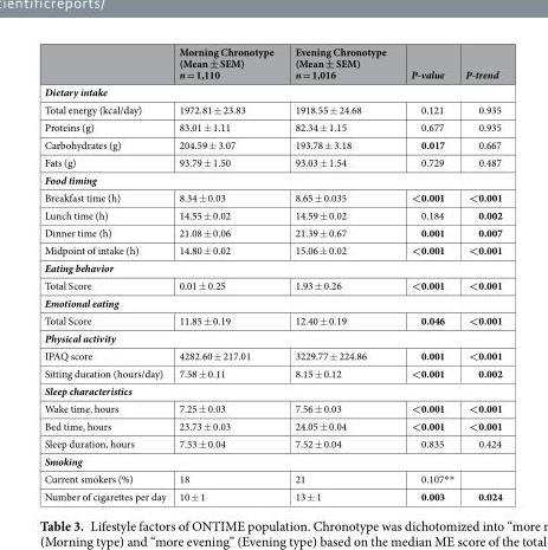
<table><thead><tr><td></td><td>Morning Chronotype (Mean ± SEM) n = 1,110</td><td>Evening Chronotype (Mean ± SEM) n = 1,016</td><td>P-value</td><td>P-trend</td></tr></thead><tbody><tr><td colspan="5">Dietary intake</td></tr><tr><td>Total energy (kcal/day)</td><td>1972.81 ± 23.83</td><td>1918.55 ± 24.68</td><td>0.121</td><td>0.935</td></tr><tr><td>Proteins (g)</td><td>83.01 ± 1.11</td><td>82.34 ± 1.15</td><td>0.677</td><td>0.935</td></tr><tr><td>Carbohydrates (g)</td><td>204.59 ± 3.07</td><td>193.78 ± 3.18</td><td>0.017</td><td>0.667</td></tr><tr><td>Fats (g)</td><td>93.79 ± 1.50</td><td>93.03 ± 1.54</td><td>0.729</td><td>0.487</td></tr><tr><td colspan="5">Food timing</td></tr><tr><td>Breakfast time (h)</td><td>8.34 ± 0.03</td><td>8.65 ± 0.035</td><td>&lt;0.001</td><td>&lt;0.001</td></tr><tr><td>Lunch time (h)</td><td>14.55 ± 0.02</td><td>14.59 ± 0.02</td><td>0.184</td><td>0.002</td></tr><tr><td>Dinner time (h)</td><td>21.08 ± 0.06</td><td>21.39 ± 0.67</td><td>0.001</td><td>0.007</td></tr><tr><td>Midpoint of intake (h)</td><td>14.80 ± 0.02</td><td>15.06 ± 0.02</td><td>&lt;0.001</td><td>&lt;0.001</td></tr><tr><td colspan="5">Eating behavior</td></tr><tr><td>Total Score</td><td>0.01 ± 0.25</td><td>1.93 ± 0.26</td><td>&lt;0.001</td><td>&lt;0.001</td></tr><tr><td colspan="5">Emotional eating</td></tr><tr><td>Total Score</td><td>11.85 ± 0.19</td><td>12.40 ± 0.19</td><td>0.046</td><td>&lt;0.001</td></tr><tr><td colspan="5">Physical activity</td></tr><tr><td>IPAQ score</td><td>4282.60 ± 217.01</td><td>3229.77 ± 224.86</td><td>0.001</td><td>&lt;0.001</td></tr><tr><td>Sitting duration (hours/day)</td><td>7.58 ± 0.11</td><td>8.15 ± 0.12</td><td>&lt;0.001</td><td>0.002</td></tr><tr><td colspan="5">Sleep characteristics</td></tr><tr><td>Wake time, hours</td><td>7.25 ± 0.03</td><td>7.56 ± 0.03</td><td>&lt;0.001</td><td>&lt;0.001</td></tr><tr><td>Bed time, hours</td><td>23.73 ± 0.03</td><td>24.05 ± 0.04</td><td>&lt;0.001</td><td>&lt;0.001</td></tr><tr><td>Sleep duration, hours</td><td>7.53 ± 0.04</td><td>7.52 ± 0.04</td><td>0.835</td><td>0.424</td></tr><tr><td colspan="5">Smoking</td></tr><tr><td>Current smokers (%)</td><td>18</td><td>21</td><td>0.107**</td><td></td></tr><tr><td>Number of cigarettes per day</td><td>10 ± 1</td><td>13 ± 1</td><td>0.003</td><td>0.024</td></tr></tbody></table>